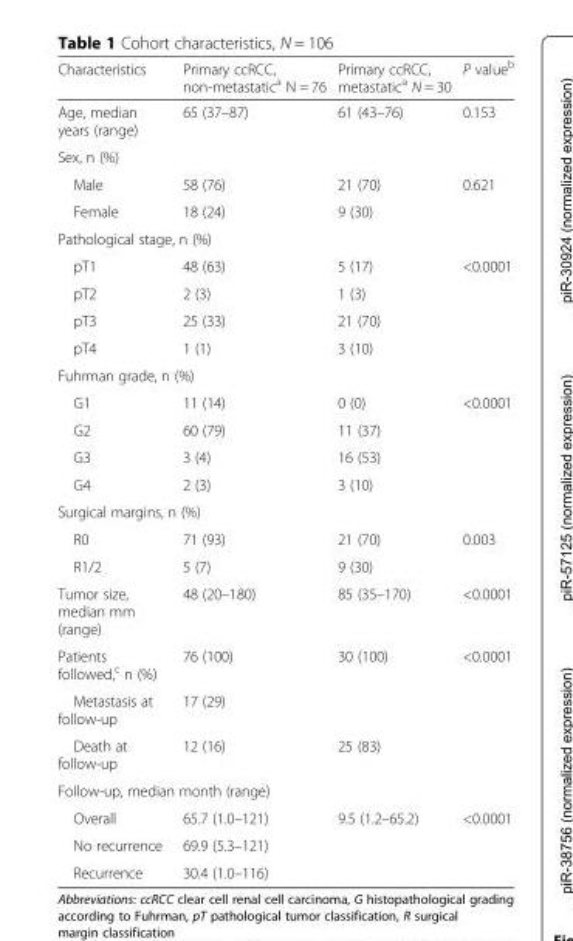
<table><thead><tr><td>Characteristics</td><td>Primary ccRCC, non-metastatic<sup>a</sup> N = 76</td><td>Primary ccRCC, metastatic<sup>a</sup> N = 30</td><td>P value<sup>b</sup></td></tr></thead><tbody><tr><td>Age, median years (range)</td><td>65 (37–87)</td><td>61 (43–76)</td><td>0.153</td></tr><tr><td colspan="4">Sex, n (%)</td></tr><tr><td>Male</td><td>58 (76)</td><td>21 (70)</td><td>0.621</td></tr><tr><td>Female</td><td>18 (24)</td><td>9 (30)</td><td></td></tr><tr><td colspan="4">Pathological stage, n (%)</td></tr><tr><td>pT1</td><td>48 (63)</td><td>5 (17)</td><td>&lt;0.0001</td></tr><tr><td>pT2</td><td>2 (3)</td><td>1 (3)</td><td></td></tr><tr><td>pT3</td><td>25 (33)</td><td>21 (70)</td><td></td></tr><tr><td>pT4</td><td>1 (1)</td><td>3 (10)</td><td></td></tr><tr><td colspan="4">Fuhrman grade, n (%)</td></tr><tr><td>G1</td><td>11 (14)</td><td>0 (0)</td><td>&lt;0.0001</td></tr><tr><td>G2</td><td>60 (79)</td><td>11 (37)</td><td></td></tr><tr><td>G3</td><td>3 (4)</td><td>16 (53)</td><td></td></tr><tr><td>G4</td><td>2 (3)</td><td>3 (10)</td><td></td></tr><tr><td colspan="4">Surgical margins, n (%)</td></tr><tr><td>R0</td><td>71 (93)</td><td>21 (70)</td><td>0.003</td></tr><tr><td>R1/2</td><td>5 (7)</td><td>9 (30)</td><td></td></tr><tr><td>Tumor size, median mm (range)</td><td>48 (20–180)</td><td>85 (35–170)</td><td>&lt;0.0001</td></tr><tr><td>Patients followed,<sup>c</sup> n (%)</td><td>76 (100)</td><td>30 (100)</td><td>&lt;0.0001</td></tr><tr><td>Metastasis at follow-up</td><td>17 (29)</td><td></td><td></td></tr><tr><td>Death at follow-up</td><td>12 (16)</td><td>25 (83)</td><td></td></tr><tr><td colspan="4">Follow-up, median month (range)</td></tr><tr><td>Overall</td><td>65.7 (1.0–121)</td><td>9.5 (1.2–65.2)</td><td>&lt;0.0001</td></tr><tr><td>No recurrence</td><td>69.9 (5.3–121)</td><td></td><td></td></tr><tr><td>Recurrence</td><td>30.4 (1.0–116)</td><td></td><td></td></tr></tbody></table>